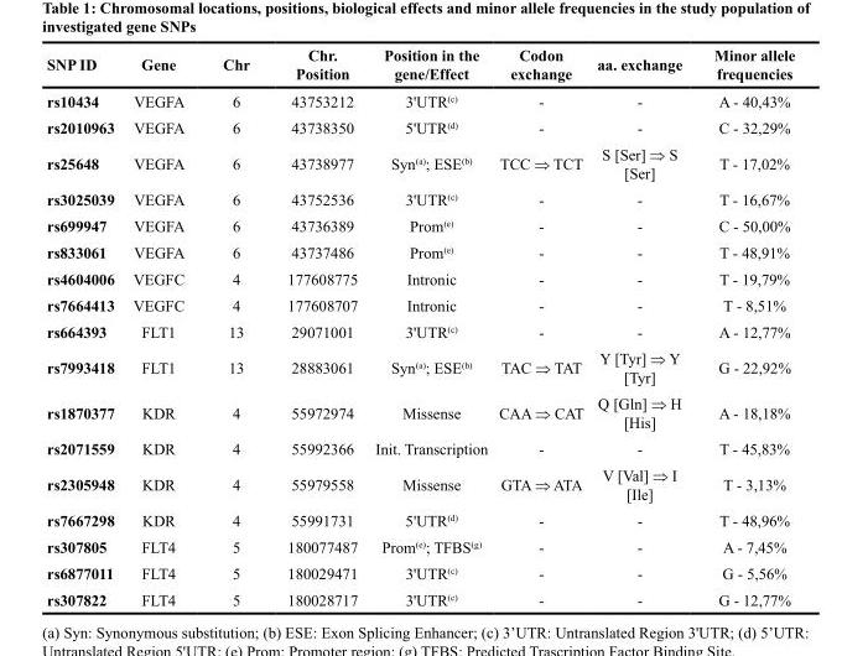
<table><thead><tr><td>SNP ID</td><td>Gene</td><td>Chr</td><td>Chr. Position</td><td>Position in the gene/Effect</td><td>Codon exchange</td><td>aa. exchange</td><td>Minor allele frequencies</td></tr></thead><tbody><tr><td>rs10434</td><td>VEGFA</td><td>6</td><td>43753212</td><td>3&#x27;UTR<sup>(c)</sup></td><td>-</td><td>-</td><td>A - 40,43%</td></tr><tr><td>rs2010963</td><td>VEGFA</td><td>6</td><td>43738350</td><td>5&#x27;UTR<sup>(d)</sup></td><td>-</td><td>-</td><td>C - 32,29%</td></tr><tr><td>rs25648</td><td>VEGFA</td><td>6</td><td>43738977</td><td>Syn<sup>(a)</sup>; ESE<sup>(b)</sup></td><td>TCC fi TCT</td><td>S [Ser] fi S [Ser]</td><td>T - 17,02%</td></tr><tr><td>rs3025039</td><td>VEGFA</td><td>6</td><td>43752536</td><td>3&#x27;UTR<sup>(c)</sup></td><td>-</td><td>-</td><td>T - 16,67%</td></tr><tr><td>rs699947</td><td>VEGFA</td><td>6</td><td>43736389</td><td>Prom<sup>(e)</sup></td><td>-</td><td>-</td><td>C - 50,00%</td></tr><tr><td>rs833061</td><td>VEGFA</td><td>6</td><td>43737486</td><td>Prom<sup>(e)</sup></td><td>-</td><td>-</td><td>T - 48,91%</td></tr><tr><td>rs4604006</td><td>VEGFC</td><td>4</td><td>177608775</td><td>Intronic</td><td>-</td><td>-</td><td>T - 19,79%</td></tr><tr><td>rs7664413</td><td>VEGFC</td><td>4</td><td>177608707</td><td>Intronic</td><td>-</td><td>-</td><td>T - 8,51%</td></tr><tr><td>rs664393</td><td>FLT1</td><td>13</td><td>29071001</td><td>3&#x27;UTR<sup>(c)</sup></td><td>-</td><td>-</td><td>A - 12,77%</td></tr><tr><td>rs7993418</td><td>FLT1</td><td>13</td><td>28883061</td><td>Syn<sup>(a)</sup>; ESE<sup>(b)</sup></td><td>TAC fi TAT</td><td>Y [Tyr] fi Y [Tyr]</td><td>G - 22,92%</td></tr><tr><td>rs1870377</td><td>KDR</td><td>4</td><td>55972974</td><td>Missense</td><td>CAA fi CAT</td><td>Q [Gln] fi H [His]</td><td>A - 18,18%</td></tr><tr><td>rs2071559</td><td>KDR</td><td>4</td><td>55992366</td><td>Init. Transcription</td><td>-</td><td>-</td><td>T - 45,83%</td></tr><tr><td>rs2305948</td><td>KDR</td><td>4</td><td>55979558</td><td>Missense</td><td>GTA fi ATA</td><td>V [Val] fi I [Ile]</td><td>T - 3,13%</td></tr><tr><td>rs7667298</td><td>KDR</td><td>4</td><td>55991731</td><td>5&#x27;UTR<sup>(d)</sup></td><td>-</td><td>-</td><td>T - 48,96%</td></tr><tr><td>rs307805</td><td>FLT4</td><td>5</td><td>180077487</td><td>Prom<sup>(e)</sup>; TFBS<sup>(g)</sup></td><td>-</td><td>-</td><td>A - 7,45%</td></tr><tr><td>rs6877011</td><td>FLT4</td><td>5</td><td>180029471</td><td>3&#x27;UTR<sup>(c)</sup></td><td>-</td><td>-</td><td>G - 5,56%</td></tr><tr><td>rs307822</td><td>FLT4</td><td>5</td><td>180028717</td><td>3&#x27;UTR<sup>(c)</sup></td><td>-</td><td>-</td><td>G - 12,77%</td></tr></tbody></table>